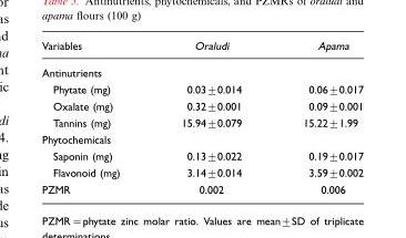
<table><thead><tr><td>Variables</td><td>Oraludi</td><td>Apama</td></tr></thead><tbody><tr><td colspan="3">Antinutrients</td></tr><tr><td>Phytate (mg)</td><td>0.03±0.014</td><td>0.06±0.017</td></tr><tr><td>Oxalate (mg)</td><td>0.32±0.001</td><td>0.09±0.001</td></tr><tr><td>Tannins (mg)</td><td>15.94±0.079</td><td>15.22±1.99</td></tr><tr><td colspan="3">Phytochemicals</td></tr><tr><td>Saponin (mg)</td><td>0.13±0.022</td><td>0.19±0.017</td></tr><tr><td>Flavonoid (mg)</td><td>3.14±0.014</td><td>3.59±0.002</td></tr><tr><td>PZMR</td><td>0.002</td><td>0.006</td></tr></tbody></table>